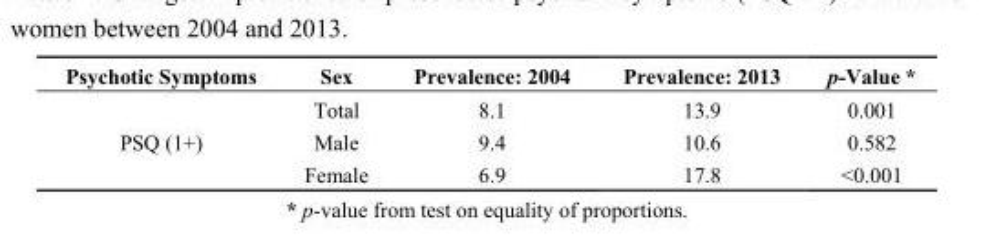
<table><thead><tr><td>Psychotic Symptoms</td><td>Sex</td><td>Prevalence: 2004</td><td>Prevalence: 2013</td><td>p-Value *</td></tr></thead><tbody><tr><td rowspan="3">PSQ (1+)</td><td>Total</td><td>8.1</td><td>13.9</td><td>0.001</td></tr><tr><td>Male</td><td>9.4</td><td>10.6</td><td>0.582</td></tr><tr><td>Female</td><td>6.9</td><td>17.8</td><td>&lt;0.001</td></tr></tbody></table>